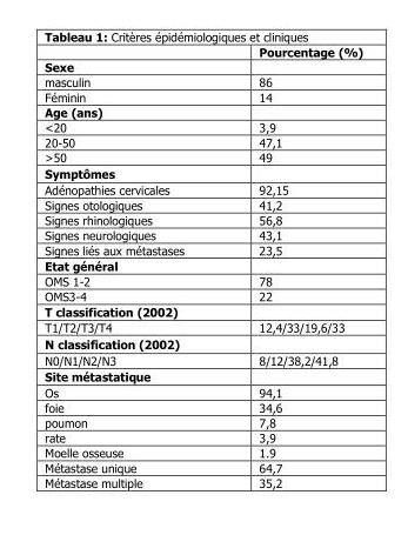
<table><thead><tr><td></td><td>Pourcentage (%)</td></tr></thead><tbody><tr><td colspan="2">Sexe</td></tr><tr><td>masculin</td><td>86</td></tr><tr><td>Féminin</td><td>14</td></tr><tr><td colspan="2">Age (ans)</td></tr><tr><td>&lt;20</td><td>3,9</td></tr><tr><td>20-50</td><td>47,1</td></tr><tr><td>&gt;50</td><td>49</td></tr><tr><td colspan="2">Symptômes</td></tr><tr><td>Adénopathies cervicales</td><td>92,15</td></tr><tr><td>Signes otologiques</td><td>41,2</td></tr><tr><td>Signes rhinologiques</td><td>56,8</td></tr><tr><td>Signes neurologiques</td><td>43,1</td></tr><tr><td>Signes liés aux métastases</td><td>23,5</td></tr><tr><td colspan="2">Etat général</td></tr><tr><td>OMS 1-2</td><td>78</td></tr><tr><td>OMS3-4</td><td>22</td></tr><tr><td colspan="2">T classification (2002)</td></tr><tr><td>T1/T2/T3/T4</td><td>12,4/33/19,6/33</td></tr><tr><td colspan="2">N classification (2002)</td></tr><tr><td>N0/N1/N2/N3</td><td>8/12/38,2/41,8</td></tr><tr><td colspan="2">Site métastatique</td></tr><tr><td>Os</td><td>94,1</td></tr><tr><td>foie</td><td>34,6</td></tr><tr><td>poumon</td><td>7,8</td></tr><tr><td>rate</td><td>3,9</td></tr><tr><td>Moelle osseuse</td><td>1.9</td></tr><tr><td>Métastase unique</td><td>64,7</td></tr><tr><td>Métastase multiple</td><td>35,2</td></tr></tbody></table>